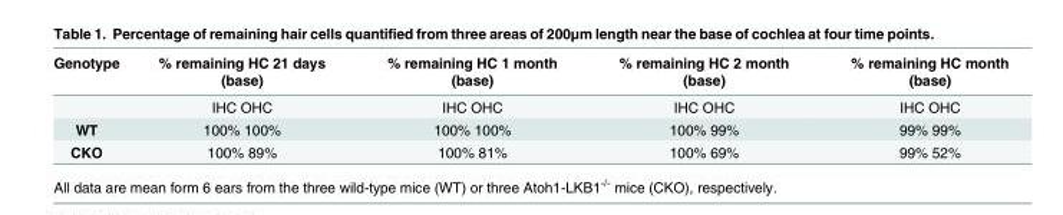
<table><thead><tr><td>Genotype</td><td>% remaining HC 21 days (base)</td><td>% remaining HC 1 month (base)</td><td>% remaining HC 2 month (base)</td><td>% remaining HC month (base)</td></tr></thead><tbody><tr><td></td><td>IHC OHC</td><td>IHC OHC</td><td>IHC OHC</td><td>IHC OHC</td></tr><tr><td>WT</td><td>100% 100%</td><td>100% 100%</td><td>100% 99%</td><td>99% 99%</td></tr><tr><td>CKO</td><td>100% 89%</td><td>100% 81%</td><td>100% 69%</td><td>99% 52%</td></tr></tbody></table>